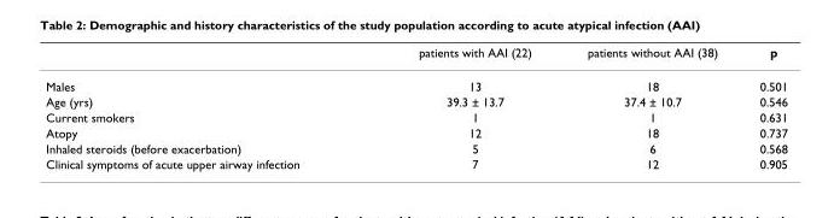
<table><thead><tr><td></td><td>patients with AAI (22)</td><td>patients without AAI (38)</td><td>p</td></tr></thead><tbody><tr><td>Males</td><td>13</td><td>18</td><td>0.501</td></tr><tr><td>Age (yrs)</td><td>39.3 ± 13.7</td><td>37.4 ± 10.7</td><td>0.546</td></tr><tr><td>Current smokers</td><td>1</td><td>1</td><td>0.631</td></tr><tr><td>Atopy</td><td>12</td><td>18</td><td>0.737</td></tr><tr><td>Inhaled steroids (before exacerbation)</td><td>5</td><td>6</td><td>0.568</td></tr><tr><td>Clinical symptoms of acute upper airway infection</td><td>7</td><td>12</td><td>0.905</td></tr></tbody></table>